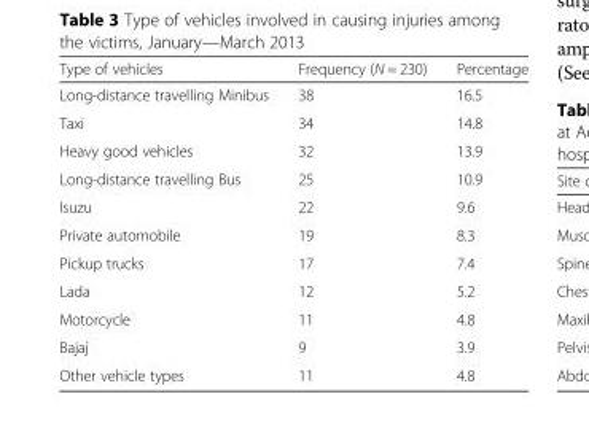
<table><thead><tr><td>Type of vehicles</td><td>Frequency (N = 230)</td><td>Percentage</td></tr></thead><tbody><tr><td>Long-distance travelling Minibus</td><td>38</td><td>16.5</td></tr><tr><td>Taxi</td><td>34</td><td>14.8</td></tr><tr><td>Heavy good vehicles</td><td>32</td><td>13.9</td></tr><tr><td>Long-distance travelling Bus</td><td>25</td><td>10.9</td></tr><tr><td>Isuzu</td><td>22</td><td>9.6</td></tr><tr><td>Private automobile</td><td>19</td><td>8.3</td></tr><tr><td>Pickup trucks</td><td>17</td><td>7.4</td></tr><tr><td>Lada</td><td>12</td><td>5.2</td></tr><tr><td>Motorcycle</td><td>11</td><td>4.8</td></tr><tr><td>Bajaj</td><td>9</td><td>3.9</td></tr><tr><td>Other vehicle types</td><td>11</td><td>4.8</td></tr></tbody></table>